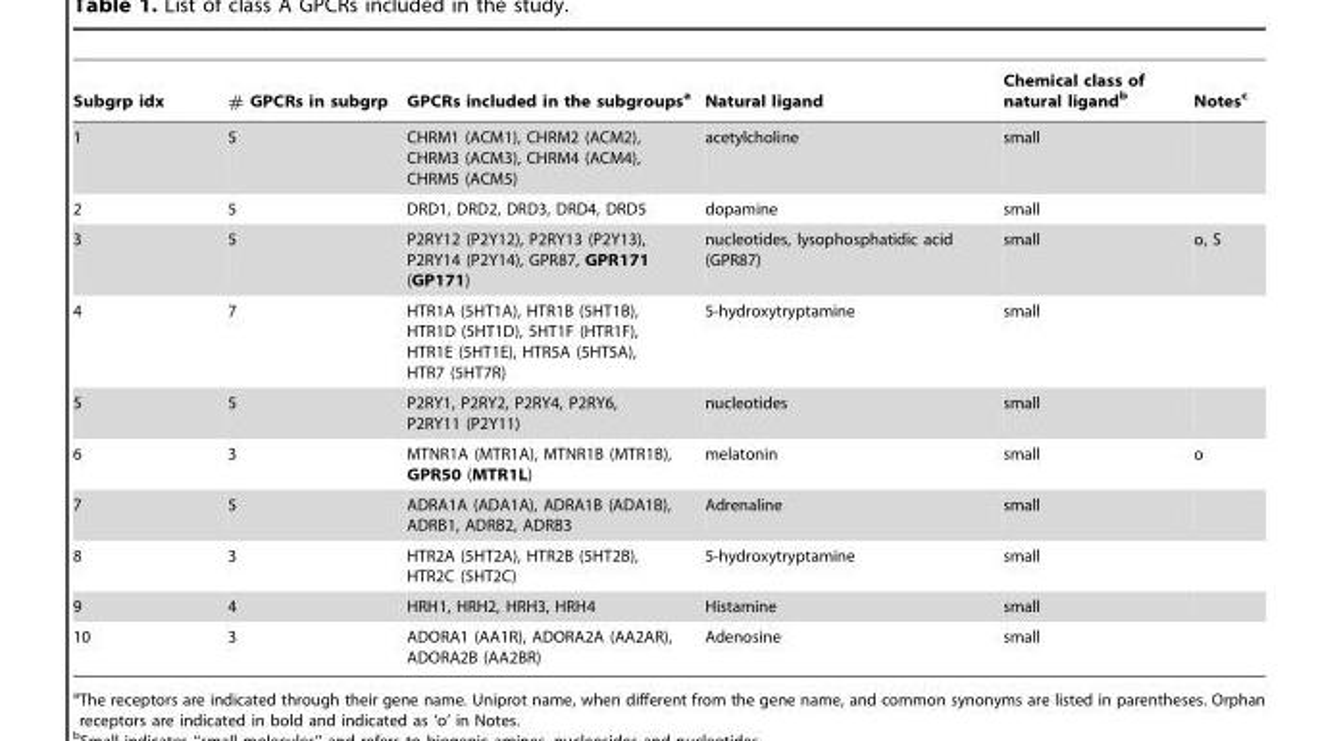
<table><thead><tr><td>Subgrp idx</td><td># GPCRs in subgrp</td><td>GPCRs included in the subgroups<sup>a</sup></td><td>Natural ligand</td><td>Chemical class of natural ligand<sup>b</sup></td><td>Notes<sup>c</sup></td></tr></thead><tbody><tr><td>1</td><td>5</td><td>CHRM1 (ACM1), CHRM2 (ACM2), CHRM3 (ACM3), CHRM4 (ACM4), CHRM5 (ACM5)</td><td>acetylcholine</td><td>small</td><td></td></tr><tr><td>2</td><td>5</td><td>DRD1, DRD2, DRD3, DRD4, DRD5</td><td>dopamine</td><td>small</td><td></td></tr><tr><td>3</td><td>5</td><td>P2RY12 (P2Y12), P2RY13 (P2Y13), P2RY14 (P2Y14), GPR87, GPR171 (GP171)</td><td>nucleotides, lysophosphatidic acid (GPR87)</td><td>small</td><td>o, S</td></tr><tr><td>4</td><td>7</td><td>HTR1A (5HT1A), HTR1B (5HT1B), HTR1D (5HT1D), 5HT1F (HTR1F), HTR1E (5HT1E), HTR5A (5HT5A), HTR7 (5HT7R)</td><td>5-hydroxytryptamine</td><td>small</td><td></td></tr><tr><td>5</td><td>5</td><td>P2RY1, P2RY2, P2RY4, P2RY6, P2RY11 (P2Y11)</td><td>nucleotides</td><td>small</td><td></td></tr><tr><td>6</td><td>3</td><td>MTNR1A (MTR1A), MTNR1B (MTR1B), GPR50 (MTR1L)</td><td>melatonin</td><td>small</td><td>o</td></tr><tr><td>7</td><td>5</td><td>ADRA1A (ADA1A), ADRA1B (ADA1B), ADRB1, ADRB2, ADRB3</td><td>Adrenaline</td><td>small</td><td></td></tr><tr><td>8</td><td>3</td><td>HTR2A (5HT2A), HTR2B (5HT2B), HTR2C (5HT2C)</td><td>5-hydroxytryptamine</td><td>small</td><td></td></tr><tr><td>9</td><td>4</td><td>HRH1, HRH2, HRH3, HRH4</td><td>Histamine</td><td>small</td><td></td></tr><tr><td>10</td><td>3</td><td>ADORA1 (AA1R), ADORA2A (AA2AR), ADORA2B (AA2BR)</td><td>Adenosine</td><td>small</td><td></td></tr></tbody></table>